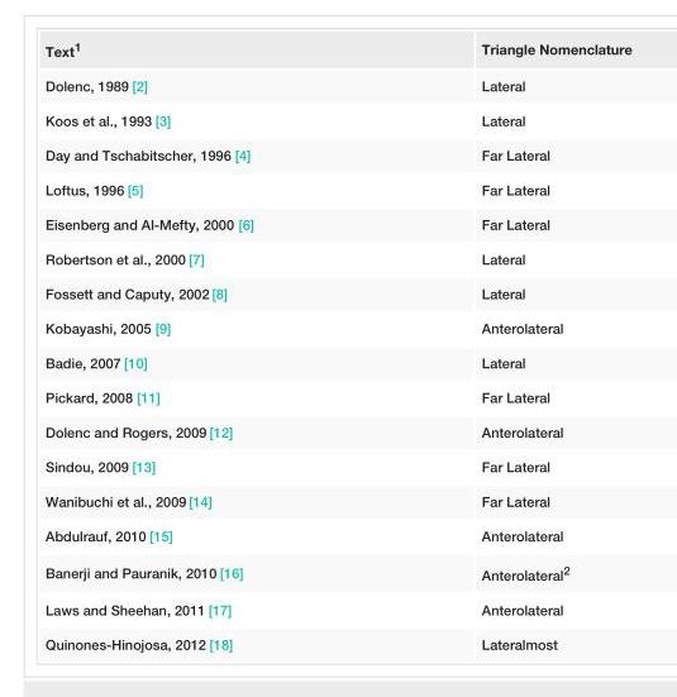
<table><tbody><tr><td>Text<sup>1</sup></td><td>Triangle Nomenclature</td></tr><tr><td>Dolenc, 1989 [2]</td><td>Lateral</td></tr><tr><td>Koos et al., 1993 [3]</td><td>Lateral</td></tr><tr><td>Day and Tschabitscher, 1996 [4]</td><td>Far Lateral</td></tr><tr><td>Loftus, 1996 [5]</td><td>Far Lateral</td></tr><tr><td>Eisenberg and Al-Mefty, 2000 [6]</td><td>Far Lateral</td></tr><tr><td>Robertson et al., 2000 [7]</td><td>Lateral</td></tr><tr><td>Fossett and Caputy, 2002 [8]</td><td>Lateral</td></tr><tr><td>Kobayashi, 2005 [9]</td><td>Anterolateral</td></tr><tr><td>Badie, 2007 [10]</td><td>Lateral</td></tr><tr><td>Pickard, 2008 [11]</td><td>Far Lateral</td></tr><tr><td>Dolenc and Rogers, 2009 [12]</td><td>Anterolateral</td></tr><tr><td>Sindou, 2009 [13]</td><td>Far Lateral</td></tr><tr><td>Wanibuchi et al., 2009 [14]</td><td>Far Lateral</td></tr><tr><td>Abdulrauf, 2010 [15]</td><td>Anterolateral</td></tr><tr><td>Banerji and Pauranik, 2010 [16]</td><td>Anterolateral<sup>2</sup></td></tr><tr><td>Laws and Sheehan, 2011 [17]</td><td>Anterolateral</td></tr><tr><td>Quinones-Hinojosa, 2012 [18]</td><td>Lateralmost</td></tr></tbody></table>